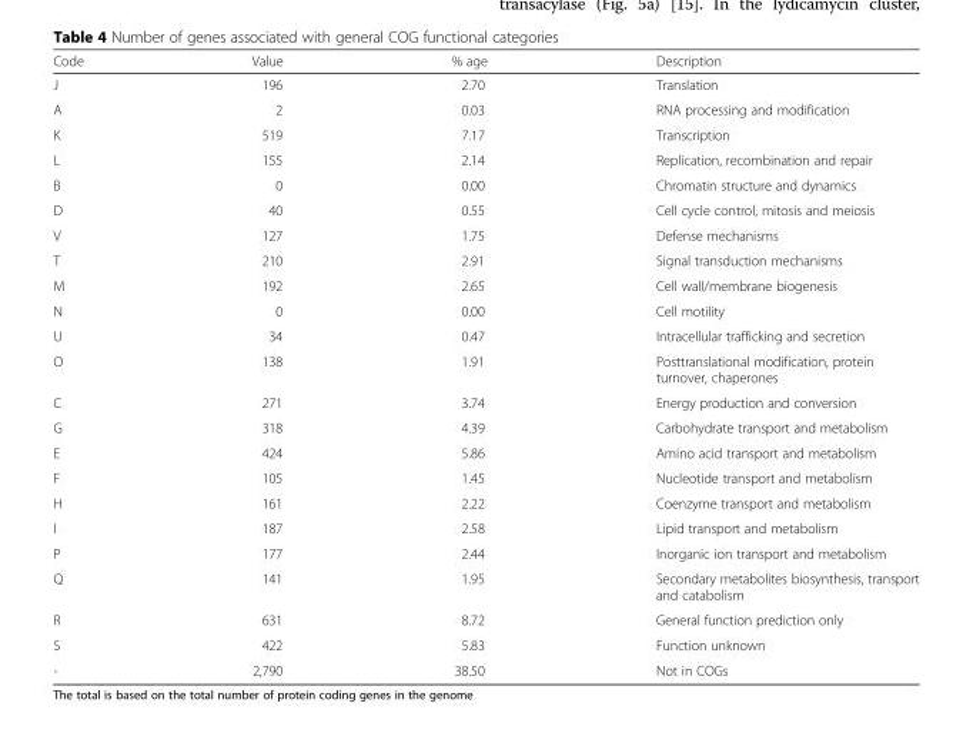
<table><thead><tr><td>Code</td><td>Value</td><td>% age</td><td>Description</td></tr></thead><tbody><tr><td>J</td><td>196</td><td>2.70</td><td>Translation</td></tr><tr><td>A</td><td>2</td><td>0.03</td><td>RNA processing and modification</td></tr><tr><td>K</td><td>519</td><td>7.17</td><td>Transcription</td></tr><tr><td>L</td><td>155</td><td>2.14</td><td>Replication, recombination and repair</td></tr><tr><td>B</td><td>0</td><td>0.00</td><td>Chromatin structure and dynamics</td></tr><tr><td>D</td><td>40</td><td>0.55</td><td>Cell cycle control, mitosis and meiosis</td></tr><tr><td>V</td><td>127</td><td>1.75</td><td>Defense mechanisms</td></tr><tr><td>T</td><td>210</td><td>2.91</td><td>Signal transduction mechanisms</td></tr><tr><td>M</td><td>192</td><td>2.65</td><td>Cell wall/membrane biogenesis</td></tr><tr><td>N</td><td>0</td><td>0.00</td><td>Cell motility</td></tr><tr><td>U</td><td>34</td><td>0.47</td><td>Intracellular trafficking and secretion</td></tr><tr><td>O</td><td>138</td><td>1.91</td><td>Posttranslational modification, protein turnover, chaperones</td></tr><tr><td>C</td><td>271</td><td>3.74</td><td>Energy production and conversion</td></tr><tr><td>G</td><td>318</td><td>4.39</td><td>Carbohydrate transport and metabolism</td></tr><tr><td>E</td><td>424</td><td>5.86</td><td>Amino acid transport and metabolism</td></tr><tr><td>F</td><td>105</td><td>1.45</td><td>Nucleotide transport and metabolism</td></tr><tr><td>H</td><td>161</td><td>2.22</td><td>Coenzyme transport and metabolism</td></tr><tr><td>I</td><td>187</td><td>2.58</td><td>Lipid transport and metabolism</td></tr><tr><td>P</td><td>177</td><td>2.44</td><td>Inorganic ion transport and metabolism</td></tr><tr><td>Q</td><td>141</td><td>1.95</td><td>Secondary metabolites biosynthesis, transport and catabolism</td></tr><tr><td>R</td><td>631</td><td>8.72</td><td>General function prediction only</td></tr><tr><td>S</td><td>422</td><td>5.83</td><td>Function unknown</td></tr><tr><td>-</td><td>2,790</td><td>38.50</td><td>Not in COGs</td></tr></tbody></table>